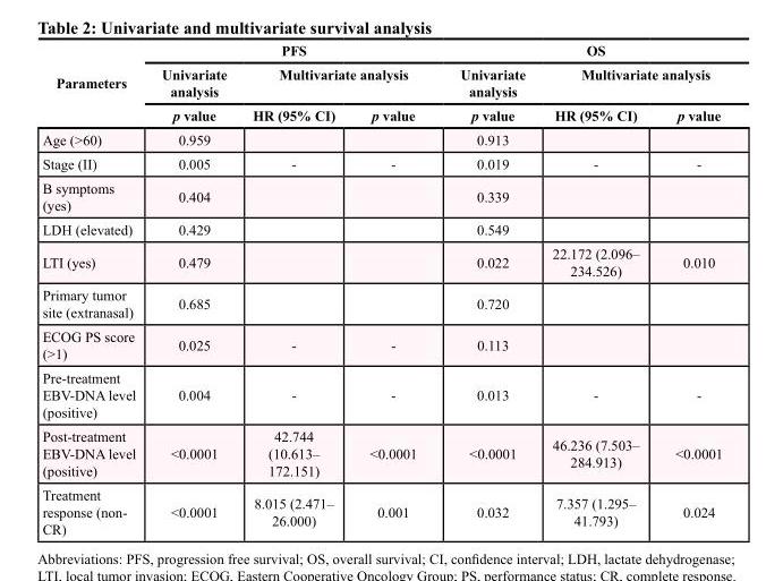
<table><thead><tr><td rowspan="3">Parameters</td><td colspan="3">PFS</td><td colspan="3">OS</td></tr><tr><td rowspan="2">Univariate analysis p value</td><td colspan="2">Multivariate analysis</td><td rowspan="2">Univariate analysis p value</td><td colspan="2">Multivariate analysis</td></tr><tr><td>HR (95% CI)</td><td>p value</td><td>HR (95% CI)</td><td>p value</td></tr></thead><tbody><tr><td>Age (&gt;60)</td><td>0.959</td><td></td><td></td><td>0.913</td><td></td><td></td></tr><tr><td>Stage (II)</td><td>0.005</td><td>-</td><td>-</td><td>0.019</td><td>-</td><td>-</td></tr><tr><td>B symptoms (yes)</td><td>0.404</td><td></td><td></td><td>0.339</td><td></td><td></td></tr><tr><td>LDH (elevated)</td><td>0.429</td><td></td><td></td><td>0.549</td><td></td><td></td></tr><tr><td>LTI (yes)</td><td>0.479</td><td></td><td></td><td>0.022</td><td>22.172 (2.096– 234.526)</td><td>0.010</td></tr><tr><td>Primary tumor site (extranasal)</td><td>0.685</td><td></td><td></td><td>0.720</td><td></td><td></td></tr><tr><td>ECOG PS score (&gt;1)</td><td>0.025</td><td>-</td><td>-</td><td>0.113</td><td></td><td></td></tr><tr><td>Pre-treatment EBV-DNA level (positive)</td><td>0.004</td><td>-</td><td>-</td><td>0.013</td><td>-</td><td>-</td></tr><tr><td>Post-treatment EBV-DNA level (positive)</td><td>&lt;0.0001</td><td>42.744 (10.613– 172.151)</td><td>&lt;0.0001</td><td>&lt;0.0001</td><td>46.236 (7.503– 284.913)</td><td>&lt;0.0001</td></tr><tr><td>Treatment response (non- CR)</td><td>&lt;0.0001</td><td>8.015 (2.471– 26.000)</td><td>0.001</td><td>0.032</td><td>7.357 (1.295– 41.793)</td><td>0.024</td></tr></tbody></table>